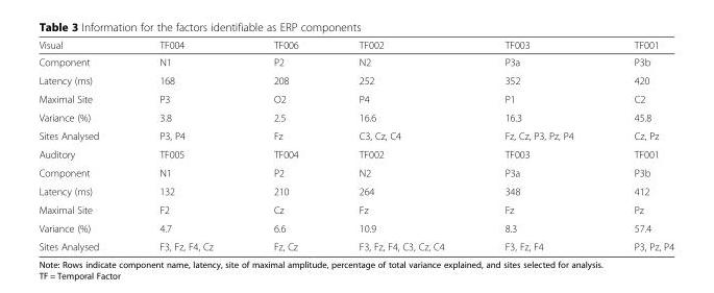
<table><thead><tr><td>Visual</td><td>TF004</td><td>TF006</td><td>TF002</td><td>TF003</td><td>TF001</td></tr></thead><tbody><tr><td>Component</td><td>N1</td><td>P2</td><td>N2</td><td>P3a</td><td>P3b</td></tr><tr><td>Latency (ms)</td><td>168</td><td>208</td><td>252</td><td>352</td><td>420</td></tr><tr><td>Maximal Site</td><td>P3</td><td>O2</td><td>P4</td><td>P1</td><td>C2</td></tr><tr><td>Variance (%)</td><td>3.8</td><td>2.5</td><td>16.6</td><td>16.3</td><td>45.8</td></tr><tr><td>Sites Analysed</td><td>P3, P4</td><td>Fz</td><td>C3, Cz, C4</td><td>Fz, Cz, P3, Pz, P4</td><td>Cz, Pz</td></tr><tr><td>Auditory</td><td>TF005</td><td>TF004</td><td>TF002</td><td>TF003</td><td>TF001</td></tr><tr><td>Component</td><td>N1</td><td>P2</td><td>N2</td><td>P3a</td><td>P3b</td></tr><tr><td>Latency (ms)</td><td>132</td><td>210</td><td>264</td><td>348</td><td>412</td></tr><tr><td>Maximal Site</td><td>F2</td><td>Cz</td><td>Fz</td><td>Fz</td><td>Pz</td></tr><tr><td>Variance (%)</td><td>4.7</td><td>6.6</td><td>10.9</td><td>8.3</td><td>57.4</td></tr><tr><td>Sites Analysed</td><td>F3, Fz, F4, Cz</td><td>Fz, Cz</td><td>F3, Fz, F4, C3, Cz, C4</td><td>F3, Fz, F4</td><td>P3, Pz, P4</td></tr></tbody></table>